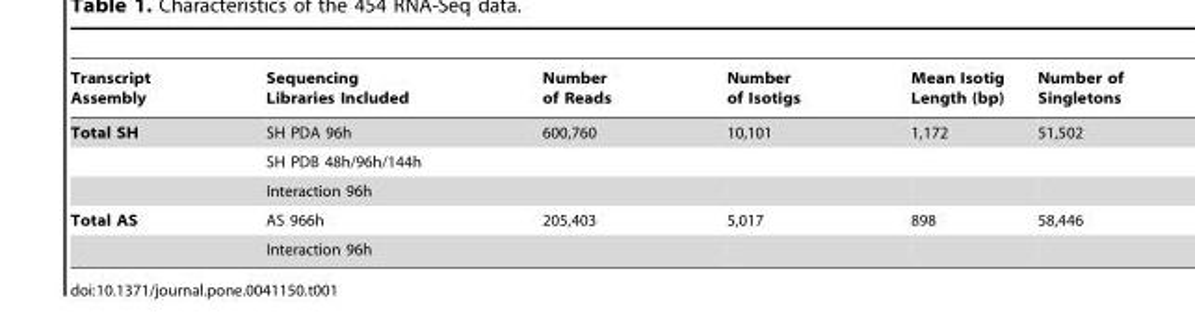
<table><thead><tr><td>Transcript Assembly</td><td>Sequencing Libraries Included</td><td>Number of Reads</td><td>Number of Isotigs</td><td>Mean Isotig Length (bp)</td><td>Number of Singletons</td></tr></thead><tbody><tr><td rowspan="3">Total SH</td><td>SH PDA 96h</td><td>600,760</td><td>10,101</td><td>1,172</td><td>51,502</td></tr><tr><td>SH PDB 48h/96h/144h</td><td></td><td></td><td></td><td></td></tr><tr><td>Interaction 96h</td><td></td><td></td><td></td><td></td></tr><tr><td rowspan="2">Total AS</td><td>AS 966h</td><td>205,403</td><td>5,017</td><td>898</td><td>58,446</td></tr><tr><td>Interaction 96h</td><td></td><td></td><td></td><td></td></tr></tbody></table>